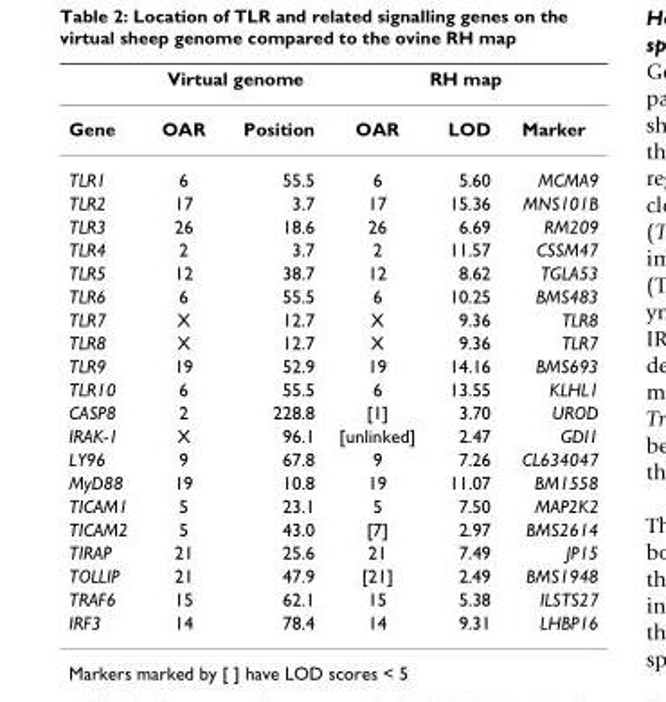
<table><thead><tr><td rowspan="2">Gene</td><td colspan="2">Virtual genome</td><td colspan="3">RH map</td></tr><tr><td>OAR</td><td>Position</td><td>OAR</td><td>LOD</td><td>Marker</td></tr></thead><tbody><tr><td>TLR1</td><td>6</td><td>55.5</td><td>6</td><td>5.60</td><td>MCMA9</td></tr><tr><td>TLR2</td><td>17</td><td>3.7</td><td>17</td><td>15.36</td><td>MNS101B</td></tr><tr><td>TLR3</td><td>26</td><td>18.6</td><td>26</td><td>6.69</td><td>RM209</td></tr><tr><td>TLR4</td><td>2</td><td>3.7</td><td>2</td><td>11.57</td><td>CSSM47</td></tr><tr><td>TLR5</td><td>12</td><td>38.7</td><td>12</td><td>8.62</td><td>TGLA53</td></tr><tr><td>TLR6</td><td>6</td><td>55.5</td><td>6</td><td>10.25</td><td>BMS483</td></tr><tr><td>TLR7</td><td>X</td><td>12.7</td><td>X</td><td>9.36</td><td>TLR8</td></tr><tr><td>TLR8</td><td>X</td><td>12.7</td><td>X</td><td>9.36</td><td>TLR7</td></tr><tr><td>TLR9</td><td>19</td><td>52.9</td><td>19</td><td>14.16</td><td>BMS693</td></tr><tr><td>TLR10</td><td>6</td><td>55.5</td><td>6</td><td>13.55</td><td>KLHL1</td></tr><tr><td>CASP8</td><td>2</td><td>228.8</td><td>[1]</td><td>3.70</td><td>UROD</td></tr><tr><td>IRAK-1</td><td>X</td><td>96.1</td><td>[unlinked]</td><td>2.47</td><td>GDI1</td></tr><tr><td>LY96</td><td>9</td><td>67.8</td><td>9</td><td>7.26</td><td>CL634047</td></tr><tr><td>MyD88</td><td>19</td><td>10.8</td><td>19</td><td>11.07</td><td>BM1558</td></tr><tr><td>TICAM1</td><td>5</td><td>23.1</td><td>5</td><td>7.50</td><td>MAP2K2</td></tr><tr><td>TICAM2</td><td>5</td><td>43.0</td><td>[7]</td><td>2.97</td><td>BMS2614</td></tr><tr><td>TIRAP</td><td>21</td><td>25.6</td><td>21</td><td>7.49</td><td>JP15</td></tr><tr><td>TOLLIP</td><td>21</td><td>47.9</td><td>[21]</td><td>2.49</td><td>BMS1948</td></tr><tr><td>TRAF6</td><td>15</td><td>62.1</td><td>15</td><td>5.38</td><td>ILSTS27</td></tr><tr><td>IRF3</td><td>14</td><td>78.4</td><td>14</td><td>9.31</td><td>LHBP16</td></tr></tbody></table>